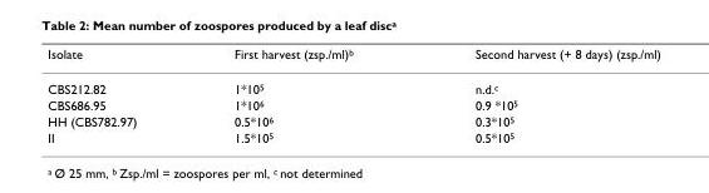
<table><thead><tr><td>Isolate</td><td>First harvest (zsp./ml)<sup>b</sup></td><td>Second harvest (+ 8 days) (zsp./ml)</td></tr></thead><tbody><tr><td>CBS212.82</td><td>1*10<sup>5</sup></td><td>n.d.<sup>c</sup></td></tr><tr><td>CBS686.95</td><td>1*10<sup>6</sup></td><td>0.9 *10<sup>5</sup></td></tr><tr><td>HH (CBS782.97)</td><td>0.5*10<sup>6</sup></td><td>0.3*10<sup>5</sup></td></tr><tr><td>II</td><td>1.5*10<sup>5</sup></td><td>0.5*10<sup>5</sup></td></tr></tbody></table>